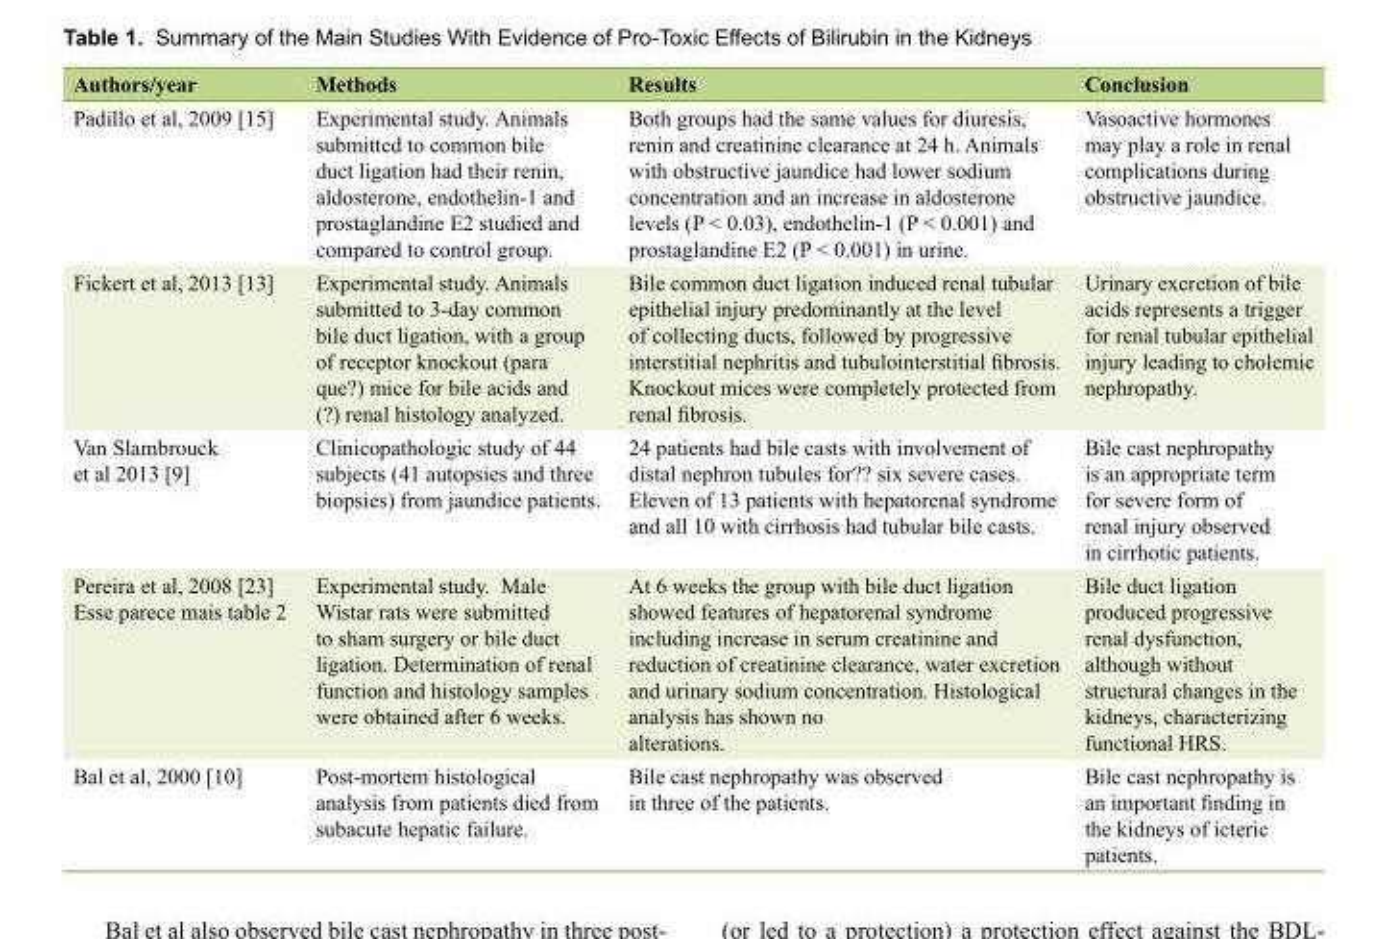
<table><thead><tr><td>Authors/year</td><td>Methods</td><td>Results</td><td>Conclusion</td></tr></thead><tbody><tr><td>Padillo et al, 2009 [15]</td><td>Experimental study. Animals submitted to common bile duct ligation had their renin, aldosterone, endothelin-1 and prostaglandine E2 studied and compared to control group.</td><td>Both groups had the same values for diuresis, renin and creatinine clearance at 24 h. Animals with obstructive jaundice had lower sodium concentration and an increase in aldosterone levels (P &lt; 0.03), endothelin-1 (P &lt; 0.001) and prostaglandine E2 (P &lt; 0.001) in urine.</td><td>Vasoactive hormones may play a role in renal complications during obstructive jaundice.</td></tr><tr><td>Fickert et al, 2013 [13]</td><td>Experimental study. Animals submitted to 3-day common bile duct ligation, with a group of receptor knockout (para que?) mice for bile acids and (?) renal histology analyzed.</td><td>Bile common duct ligation induced renal tubular epithelial injury predominantly at the level of collecting ducts, followed by progressive interstitial nephritis and tubulointerstitial fibrosis. Knockout mices were completely protected from renal fibrosis.</td><td>Urinary excretion of bile acids represents a trigger for renal tubular epithelial injury leading to cholemic nephropathy.</td></tr><tr><td>Van Slambrouck et al 2013 [9]</td><td>Clinicopathologic study of 44 subjects (41 autopsies and three biopsies) from jaundice patients.</td><td>24 patients had bile casts with involvement of distal nephron tubules for?? six severe cases. Eleven of 13 patients with hepatorenal syndrome and all 10 with cirrhosis had tubular bile casts.</td><td>Bile cast nephropathy is an appropriate term for severe form of renal injury observed in cirrhotic patients.</td></tr><tr><td>Pereira et al, 2008 [23] Esse parece mais table 2</td><td>Experimental study. Male Wistar rats were submitted to sham surgery or bile duct ligation. Determination of renal function and histology samples were obtained after 6 weeks.</td><td>At 6 weeks the group with bile duct ligation showed features of hepatorenal syndrome including increase in serum creatinine and reduction of creatinine clearance, water excretion and urinary sodium concentration. Histological analysis has shown no alterations.</td><td>Bile duct ligation produced progressive renal dysfunction, although without structural changes in the kidneys, characterizing functional HRS.</td></tr><tr><td>Bal et al, 2000 [10]</td><td>Post-mortem histological analysis from patients died from subacute hepatic failure.</td><td>Bile cast nephropathy was observed in three of the patients.</td><td>Bile cast nephropathy is an important finding in the kidneys of icteric patients.</td></tr></tbody></table>